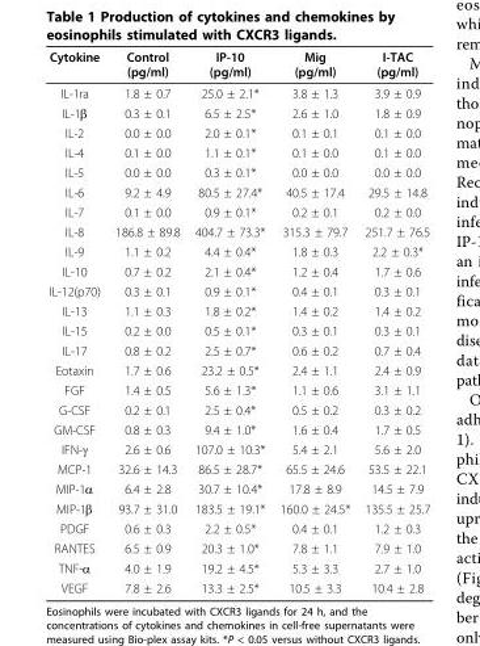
<table><thead><tr><td>Cytokine</td><td>Control (pg/ml)</td><td>IP-10 (pg/ml)</td><td>Mig (pg/ml)</td><td>I-TAC (pg/ml)</td></tr></thead><tbody><tr><td>IL-1ra</td><td>1.8 ± 0.7</td><td>25.0 ± 2.1*</td><td>3.8 ± 1.3</td><td>3.9 ± 0.9</td></tr><tr><td>IL-1β</td><td>0.3 ± 0.1</td><td>6.5 ± 2.5*</td><td>2.6 ± 1.0</td><td>1.8 ± 0.9</td></tr><tr><td>IL-2</td><td>0.0 ± 0.0</td><td>2.0 ± 0.1*</td><td>0.1 ± 0.1</td><td>0.1 ± 0.0</td></tr><tr><td>IL-4</td><td>0.1 ± 0.0</td><td>1.1 ± 0.1*</td><td>0.1 ± 0.0</td><td>0.1 ± 0.0</td></tr><tr><td>IL-5</td><td>0.0 ± 0.0</td><td>0.3 ± 0.1*</td><td>0.0 ± 0.0</td><td>0.0 ± 0.0</td></tr><tr><td>IL-6</td><td>9.2 ± 4.9</td><td>80.5 ± 27.4*</td><td>40.5 ± 17.4</td><td>29.5 ± 14.8</td></tr><tr><td>IL-7</td><td>0.1 ± 0.0</td><td>0.9 ± 0.1*</td><td>0.2 ± 0.1</td><td>0.2 ± 0.0</td></tr><tr><td>IL-8</td><td>186.8 ± 89.8</td><td>404.7 ± 73.3*</td><td>315.3 ± 79.7</td><td>251.7 ± 76.5</td></tr><tr><td>IL-9</td><td>1.1 ± 0.2</td><td>4.4 ± 0.4*</td><td>1.8 ± 0.3</td><td>2.2 ± 0.3*</td></tr><tr><td>IL-10</td><td>0.7 ± 0.2</td><td>2.1 ± 0.4*</td><td>1.2 ± 0.4</td><td>1.7 ± 0.6</td></tr><tr><td>IL-12(p70)</td><td>0.3 ± 0.1</td><td>0.9 ± 0.1*</td><td>0.4 ± 0.1</td><td>0.3 ± 0.1</td></tr><tr><td>IL-13</td><td>1.1 ± 0.3</td><td>1.8 ± 0.2*</td><td>1.4 ± 0.2</td><td>1.4 ± 0.2</td></tr><tr><td>IL-15</td><td>0.2 ± 0.0</td><td>0.5 ± 0.1*</td><td>0.3 ± 0.1</td><td>0.3 ± 0.1</td></tr><tr><td>IL-17</td><td>0.8 ± 0.2</td><td>2.5 ± 0.7*</td><td>0.6 ± 0.2</td><td>0.7 ± 0.4</td></tr><tr><td>Eotaxin</td><td>1.7 ± 0.6</td><td>23.2 ± 0.5*</td><td>2.4 ± 1.1</td><td>2.4 ± 0.9</td></tr><tr><td>FGF</td><td>1.4 ± 0.5</td><td>5.6 ± 1.3*</td><td>1.1 ± 0.6</td><td>3.1 ± 1.1</td></tr><tr><td>G-CSF</td><td>0.2 ± 0.1</td><td>2.5 ± 0.4*</td><td>0.5 ± 0.2</td><td>0.3 ± 0.2</td></tr><tr><td>GM-CSF</td><td>0.8 ± 0.3</td><td>9.4 ± 1.0*</td><td>1.6 ± 0.4</td><td>1.7 ± 0.5</td></tr><tr><td>IFN-γ</td><td>2.6 ± 0.6</td><td>107.0 ± 10.3*</td><td>5.4 ± 2.1</td><td>5.6 ± 2.0</td></tr><tr><td>MCP-1</td><td>32.6 ± 14.3</td><td>86.5 ± 28.7*</td><td>65.5 ± 24.6</td><td>53.5 ± 22.1</td></tr><tr><td>MIP-1α</td><td>6.4 ± 2.8</td><td>30.7 ± 10.4*</td><td>17.8 ± 8.9</td><td>14.5 ± 7.9</td></tr><tr><td>MIP-1β</td><td>93.7 ± 31.0</td><td>183.5 ± 19.1*</td><td>160.0 ± 24.5*</td><td>135.5 ± 25.7</td></tr><tr><td>PDGF</td><td>0.6 ± 0.3</td><td>2.2 ± 0.5*</td><td>0.4 ± 0.1</td><td>1.2 ± 0.3</td></tr><tr><td>RANTES</td><td>6.5 ± 0.9</td><td>20.3 ± 1.0*</td><td>7.8 ± 1.1</td><td>7.9 ± 1.0</td></tr><tr><td>TNF-α</td><td>4.0 ± 1.9</td><td>19.2 ± 4.5*</td><td>5.3 ± 3.3</td><td>2.7 ± 1.0</td></tr><tr><td>VEGF</td><td>7.8 ± 2.6</td><td>13.3 ± 2.5*</td><td>10.5 ± 3.3</td><td>10.4 ± 2.8</td></tr></tbody></table>